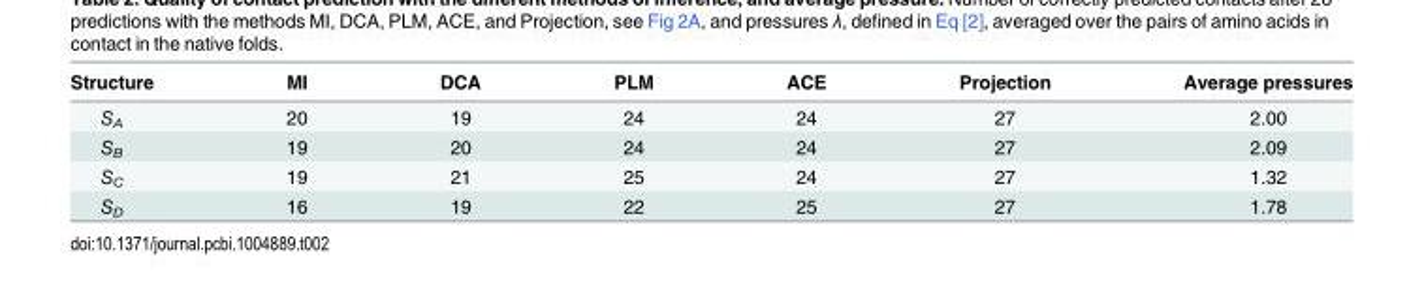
<table><thead><tr><td>Structure</td><td>MI</td><td>DCA</td><td>PLM</td><td>ACE</td><td>Projection</td><td>Average pressures</td></tr></thead><tbody><tr><td>S<sub>A</sub></td><td>20</td><td>19</td><td>24</td><td>24</td><td>27</td><td>2.00</td></tr><tr><td>S<sub>B</sub></td><td>19</td><td>20</td><td>24</td><td>24</td><td>27</td><td>2.09</td></tr><tr><td>S<sub>C</sub></td><td>19</td><td>21</td><td>25</td><td>24</td><td>27</td><td>1.32</td></tr><tr><td>S<sub>D</sub></td><td>16</td><td>19</td><td>22</td><td>25</td><td>27</td><td>1.78</td></tr></tbody></table>